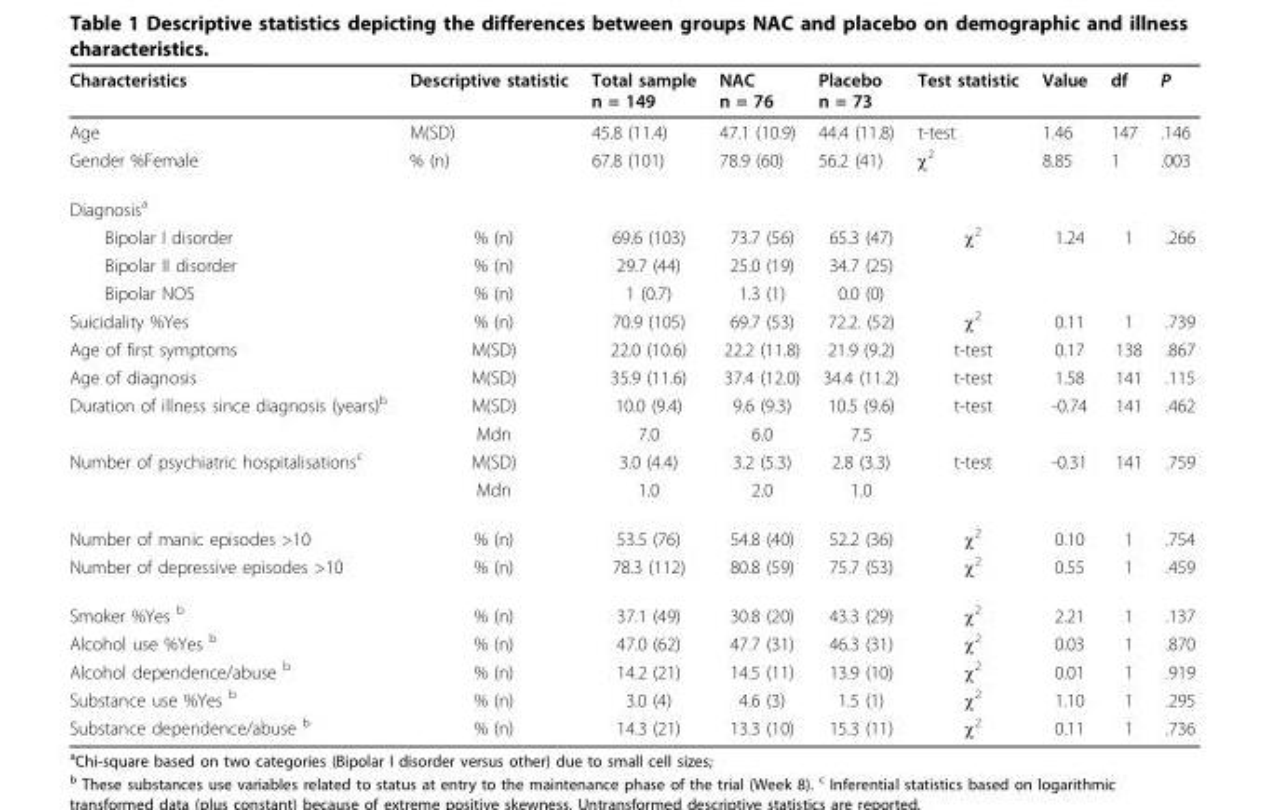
<table><thead><tr><td>Characteristics</td><td>Descriptive statistic</td><td>Total sample n = 149</td><td>NAC n = 76</td><td>Placebo n = 73</td><td>Test statistic</td><td>Value</td><td>df</td><td>P</td></tr></thead><tbody><tr><td>Age</td><td>M(SD)</td><td>45.8 (11.4)</td><td>47.1 (10.9)</td><td>44.4 (11.8)</td><td>t-test</td><td>1.46</td><td>147</td><td>.146</td></tr><tr><td>Gender %Female</td><td>% (n)</td><td>67.8 (101)</td><td>78.9 (60)</td><td>56.2 (41)</td><td>χ<sup>2</sup></td><td>8.85</td><td>1</td><td>.003</td></tr><tr><td colspan="9">Diagnosis<sup>a</sup></td></tr><tr><td>Bipolar I disorder</td><td>% (n)</td><td>69.6 (103)</td><td>73.7 (56)</td><td>65.3 (47)</td><td>χ<sup>2</sup></td><td>1.24</td><td>1</td><td>.266</td></tr><tr><td>Bipolar II disorder</td><td>% (n)</td><td>29.7 (44)</td><td>25.0 (19)</td><td>34.7 (25)</td><td></td><td></td><td></td><td></td></tr><tr><td>Bipolar NOS</td><td>% (n)</td><td>1 (0.7)</td><td>1.3 (1)</td><td>0.0 (0)</td><td></td><td></td><td></td><td></td></tr><tr><td>Suicidality %Yes</td><td>% (n)</td><td>70.9 (105)</td><td>69.7 (53)</td><td>72.2. (52)</td><td>χ<sup>2</sup></td><td>0.11</td><td>1</td><td>.739</td></tr><tr><td>Age of first symptoms</td><td>M(SD)</td><td>22.0 (10.6)</td><td>22.2 (11.8)</td><td>21.9 (9.2)</td><td>t-test</td><td>0.17</td><td>138</td><td>.867</td></tr><tr><td>Age of diagnosis</td><td>M(SD)</td><td>35.9 (11.6)</td><td>37.4 (12.0)</td><td>34.4 (11.2)</td><td>t-test</td><td>1.58</td><td>141</td><td>.115</td></tr><tr><td rowspan="2">Duration of illness since diagnosis (years)<sup>b</sup></td><td>M(SD)</td><td>10.0 (9.4)</td><td>9.6 (9.3)</td><td>10.5 (9.6)</td><td>t-test</td><td>-0.74</td><td>141</td><td>.462</td></tr><tr><td>Mdn</td><td>7.0</td><td>6.0</td><td>7.5</td><td></td><td></td><td></td><td></td></tr><tr><td rowspan="2">Number of psychiatric hospitalisations<sup>c</sup></td><td>M(SD)</td><td>3.0 (4.4)</td><td>3.2 (5.3)</td><td>2.8 (3.3)</td><td>t-test</td><td>-0.31</td><td>141</td><td>.759</td></tr><tr><td>Mdn</td><td>1.0</td><td>2.0</td><td>1.0</td><td></td><td></td><td></td><td></td></tr><tr><td>Number of manic episodes &gt;10</td><td>% (n)</td><td>53.5 (76)</td><td>54.8 (40)</td><td>52.2 (36)</td><td>χ<sup>2</sup></td><td>0.10</td><td>1</td><td>.754</td></tr><tr><td>Number of depressive episodes &gt;10</td><td>% (n)</td><td>78.3 (112)</td><td>80.8 (59)</td><td>75.7 (53)</td><td>χ<sup>2</sup></td><td>0.55</td><td>1</td><td>.459</td></tr><tr><td>Smoker %Yes <sup>b</sup></td><td>% (n)</td><td>37.1 (49)</td><td>30.8 (20)</td><td>43.3 (29)</td><td>χ<sup>2</sup></td><td>2.21</td><td>1</td><td>.137</td></tr><tr><td>Alcohol use %Yes <sup>b</sup></td><td>% (n)</td><td>47.0 (62)</td><td>47.7 (31)</td><td>46.3 (31)</td><td>χ<sup>2</sup></td><td>0.03</td><td>1</td><td>.870</td></tr><tr><td>Alcohol dependence/abuse <sup>b</sup></td><td>% (n)</td><td>14.2 (21)</td><td>14.5 (11)</td><td>13.9 (10)</td><td>χ<sup>2</sup></td><td>0.01</td><td>1</td><td>.919</td></tr><tr><td>Substance use %Yes <sup>b</sup></td><td>% (n)</td><td>3.0 (4)</td><td>4.6 (3)</td><td>1.5 (1)</td><td>χ<sup>2</sup></td><td>1.10</td><td>1</td><td>.295</td></tr><tr><td>Substance dependence/abuse <sup>b</sup></td><td>% (n)</td><td>14.3 (21)</td><td>13.3 (10)</td><td>15.3 (11)</td><td>χ<sup>2</sup></td><td>0.11</td><td>1</td><td>.736</td></tr></tbody></table>